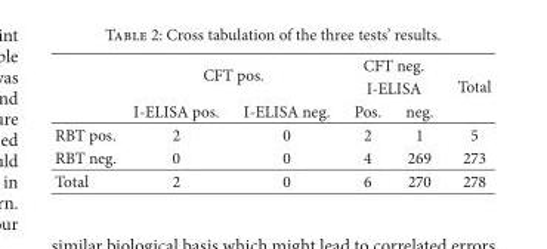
<table><thead><tr><td rowspan="3"></td><td rowspan="2" colspan="2">CFT pos.</td><td rowspan="2" colspan="2">CFT neg. I-ELISA</td><td rowspan="3">Total</td></tr><tr></tr><tr><td>I-ELISA pos.</td><td>I-ELISA neg.</td><td>Pos.</td><td>neg.</td></tr></thead><tbody><tr><td>RBT pos.</td><td>2</td><td>0</td><td>2</td><td>1</td><td>5</td></tr><tr><td>RBT neg.</td><td>0</td><td>0</td><td>4</td><td>269</td><td>273</td></tr><tr><td>Total</td><td>2</td><td>0</td><td>6</td><td>270</td><td>278</td></tr></tbody></table>